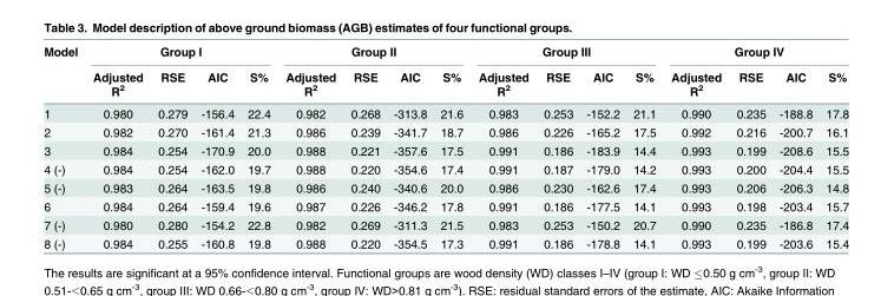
<table><thead><tr><td rowspan="2">Model</td><td colspan="4">Group I</td><td colspan="4">Group II</td><td colspan="4">Group III</td><td colspan="4">Group IV</td></tr><tr><td>Adjusted R<sup>2</sup></td><td>RSE</td><td>AIC</td><td>S%</td><td>Adjusted R<sup>2</sup></td><td>RSE</td><td>AIC</td><td>S%</td><td>Adjusted R<sup>2</sup></td><td>RSE</td><td>AIC</td><td>S%</td><td>Adjusted R<sup>2</sup></td><td>RSE</td><td>AIC</td><td>S%</td></tr></thead><tbody><tr><td>1</td><td>0.980</td><td>0.279</td><td>-156.4</td><td>22.4</td><td>0.982</td><td>0.268</td><td>-313.8</td><td>21.6</td><td>0.983</td><td>0.253</td><td>-152.2</td><td>21.1</td><td>0.990</td><td>0.235</td><td>-188.8</td><td>17.8</td></tr><tr><td>2</td><td>0.982</td><td>0.270</td><td>-161.4</td><td>21.3</td><td>0.986</td><td>0.239</td><td>-341.7</td><td>18.7</td><td>0.986</td><td>0.226</td><td>-165.2</td><td>17.5</td><td>0.992</td><td>0.216</td><td>-200.7</td><td>16.1</td></tr><tr><td>3</td><td>0.984</td><td>0.254</td><td>-170.9</td><td>20.0</td><td>0.988</td><td>0.221</td><td>-357.6</td><td>17.5</td><td>0.991</td><td>0.186</td><td>-183.9</td><td>14.4</td><td>0.993</td><td>0.199</td><td>-208.6</td><td>15.5</td></tr><tr><td>4 (-)</td><td>0.984</td><td>0.254</td><td>-162.0</td><td>19.7</td><td>0.988</td><td>0.220</td><td>-354.6</td><td>17.4</td><td>0.991</td><td>0.187</td><td>-179.0</td><td>14.2</td><td>0.993</td><td>0.200</td><td>-204.4</td><td>15.5</td></tr><tr><td>5 (-)</td><td>0.983</td><td>0.264</td><td>-163.5</td><td>19.8</td><td>0.986</td><td>0.240</td><td>-340.6</td><td>20.0</td><td>0.986</td><td>0.230</td><td>-162.6</td><td>17.4</td><td>0.993</td><td>0.206</td><td>-206.3</td><td>14.8</td></tr><tr><td>6</td><td>0.984</td><td>0.264</td><td>-159.4</td><td>19.6</td><td>0.987</td><td>0.226</td><td>-346.2</td><td>17.8</td><td>0.991</td><td>0.186</td><td>-177.5</td><td>14.1</td><td>0.993</td><td>0.198</td><td>-203.4</td><td>15.7</td></tr><tr><td>7 (-)</td><td>0.980</td><td>0.280</td><td>-154.2</td><td>22.8</td><td>0.982</td><td>0.269</td><td>-311.3</td><td>21.5</td><td>0.983</td><td>0.253</td><td>-150.2</td><td>20.7</td><td>0.990</td><td>0.235</td><td>-186.8</td><td>17.4</td></tr><tr><td>8 (-)</td><td>0.984</td><td>0.255</td><td>-160.8</td><td>19.8</td><td>0.988</td><td>0.220</td><td>-354.5</td><td>17.3</td><td>0.991</td><td>0.186</td><td>-178.8</td><td>14.1</td><td>0.993</td><td>0.199</td><td>-203.6</td><td>15.4</td></tr></tbody></table>